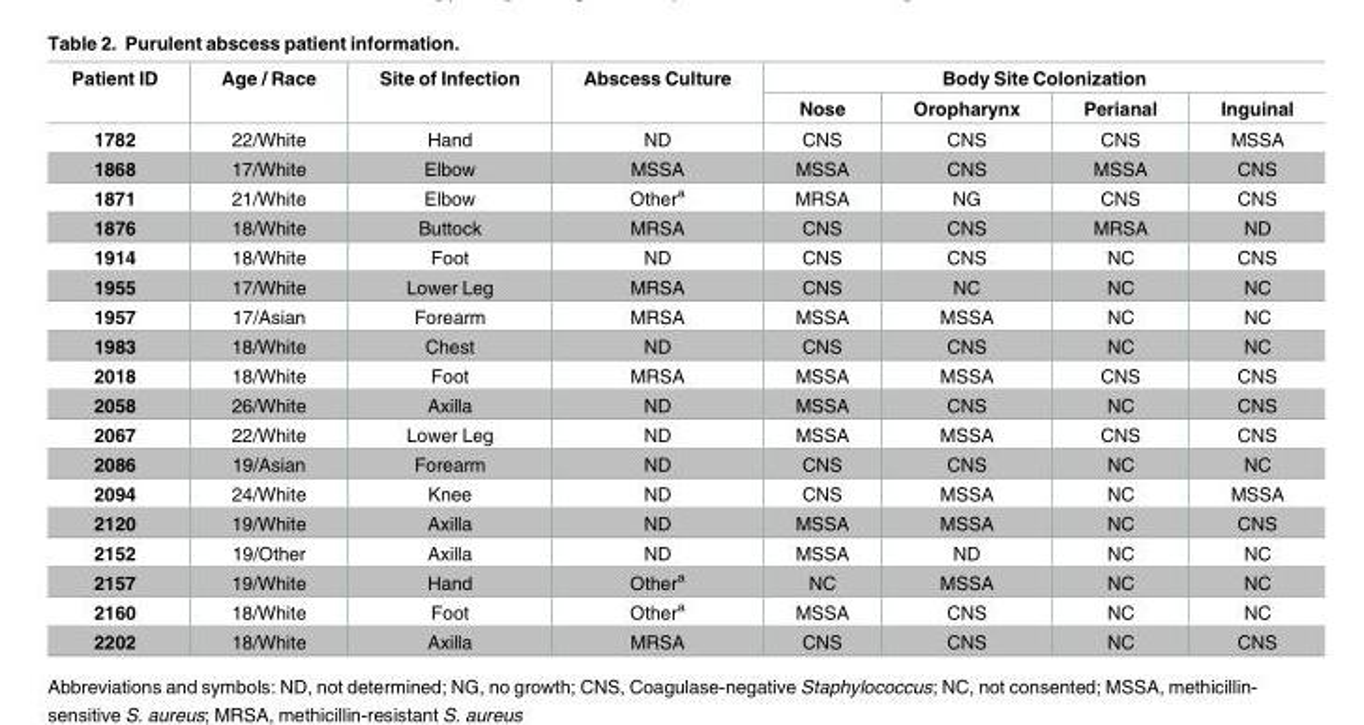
<table><thead><tr><td rowspan="2">Patient ID</td><td rowspan="2">Age / Race</td><td rowspan="2">Site of Infection</td><td rowspan="2">Abscess Culture</td><td colspan="4">Body Site Colonization</td></tr><tr><td>Nose</td><td>Oropharynx</td><td>Perianal</td><td>Inguinal</td></tr></thead><tbody><tr><td>1782</td><td>22/White</td><td>Hand</td><td>ND</td><td>CNS</td><td>CNS</td><td>CNS</td><td>MSSA</td></tr><tr><td>1868</td><td>17/White</td><td>Elbow</td><td>MSSA</td><td>MSSA</td><td>CNS</td><td>MSSA</td><td>CNS</td></tr><tr><td>1871</td><td>21/White</td><td>Elbow</td><td>Other<sup>a</sup></td><td>MRSA</td><td>NG</td><td>CNS</td><td>CNS</td></tr><tr><td>1876</td><td>18/White</td><td>Buttock</td><td>MRSA</td><td>CNS</td><td>CNS</td><td>MRSA</td><td>ND</td></tr><tr><td>1914</td><td>18/White</td><td>Foot</td><td>ND</td><td>CNS</td><td>CNS</td><td>NC</td><td>CNS</td></tr><tr><td>1955</td><td>17/White</td><td>Lower Leg</td><td>MRSA</td><td>CNS</td><td>NC</td><td>NC</td><td>NC</td></tr><tr><td>1957</td><td>17/Asian</td><td>Forearm</td><td>MRSA</td><td>MSSA</td><td>MSSA</td><td>NC</td><td>NC</td></tr><tr><td>1983</td><td>18/White</td><td>Chest</td><td>ND</td><td>CNS</td><td>CNS</td><td>NC</td><td>NC</td></tr><tr><td>2018</td><td>18/White</td><td>Foot</td><td>MRSA</td><td>MSSA</td><td>MSSA</td><td>CNS</td><td>CNS</td></tr><tr><td>2058</td><td>26/White</td><td>Axilla</td><td>ND</td><td>MSSA</td><td>CNS</td><td>NC</td><td>CNS</td></tr><tr><td>2067</td><td>22/White</td><td>Lower Leg</td><td>ND</td><td>MSSA</td><td>MSSA</td><td>CNS</td><td>CNS</td></tr><tr><td>2086</td><td>19/Asian</td><td>Forearm</td><td>ND</td><td>CNS</td><td>CNS</td><td>NC</td><td>NC</td></tr><tr><td>2094</td><td>24/White</td><td>Knee</td><td>ND</td><td>CNS</td><td>MSSA</td><td>NC</td><td>MSSA</td></tr><tr><td>2120</td><td>19/White</td><td>Axilla</td><td>ND</td><td>MSSA</td><td>MSSA</td><td>NC</td><td>CNS</td></tr><tr><td>2152</td><td>19/Other</td><td>Axilla</td><td>ND</td><td>MSSA</td><td>ND</td><td>NC</td><td>NC</td></tr><tr><td>2157</td><td>19/White</td><td>Hand</td><td>Other<sup>a</sup></td><td>NC</td><td>MSSA</td><td>NC</td><td>NC</td></tr><tr><td>2160</td><td>18/White</td><td>Foot</td><td>Other<sup>a</sup></td><td>MSSA</td><td>CNS</td><td>NC</td><td>NC</td></tr><tr><td>2202</td><td>18/White</td><td>Axilla</td><td>MRSA</td><td>CNS</td><td>CNS</td><td>NC</td><td>CNS</td></tr></tbody></table>